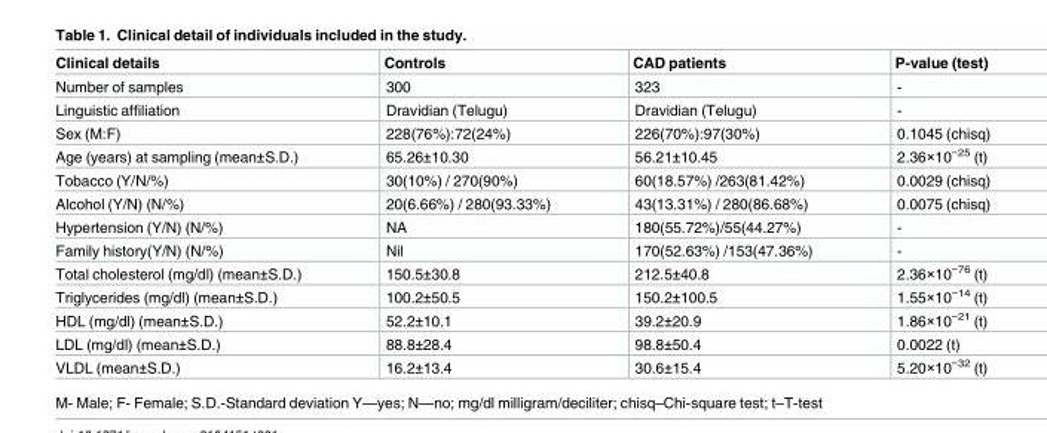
<table><thead><tr><td>Clinical details</td><td>Controls</td><td>CAD patients</td><td>P-value (test)</td></tr></thead><tbody><tr><td>Number of samples</td><td>300</td><td>323</td><td>-</td></tr><tr><td>Linguistic affiliation</td><td>Dravidian (Telugu)</td><td>Dravidian (Telugu)</td><td>-</td></tr><tr><td>Sex (M:F)</td><td>228(76%):72(24%)</td><td>226(70%):97(30%)</td><td>0.1045 (chisq)</td></tr><tr><td>Age (years) at sampling (mean±S.D.)</td><td>65.26±10.30</td><td>56.21±10.45</td><td>2.36×10<sup>−25</sup> (t)</td></tr><tr><td>Tobacco (Y/N/%)</td><td>30(10%) / 270(90%)</td><td>60(18.57%) /263(81.42%)</td><td>0.0029 (chisq)</td></tr><tr><td>Alcohol (Y/N) (N/%)</td><td>20(6.66%) / 280(93.33%)</td><td>43(13.31%) / 280(86.68%)</td><td>0.0075 (chisq)</td></tr><tr><td>Hypertension (Y/N) (N/%)</td><td>NA</td><td>180(55.72%)/55(44.27%)</td><td>-</td></tr><tr><td>Family history(Y/N) (N/%)</td><td>Nil</td><td>170(52.63%) /153(47.36%)</td><td>-</td></tr><tr><td>Total cholesterol (mg/dl) (mean±S.D.)</td><td>150.5±30.8</td><td>212.5±40.8</td><td>2.36×10<sup>−76</sup> (t)</td></tr><tr><td>Triglycerides (mg/dl) (mean±S.D.)</td><td>100.2±50.5</td><td>150.2±100.5</td><td>1.55×10<sup>−14</sup> (t)</td></tr><tr><td>HDL (mg/dl) (mean±S.D.)</td><td>52.2±10.1</td><td>39.2±20.9</td><td>1.86×10<sup>−21</sup> (t)</td></tr><tr><td>LDL (mg/dl) (mean±S.D.)</td><td>88.8±28.4</td><td>98.8±50.4</td><td>0.0022 (t)</td></tr><tr><td>VLDL (mean±S.D.)</td><td>16.2±13.4</td><td>30.6±15.4</td><td>5.20×10<sup>−32</sup> (t)</td></tr></tbody></table>